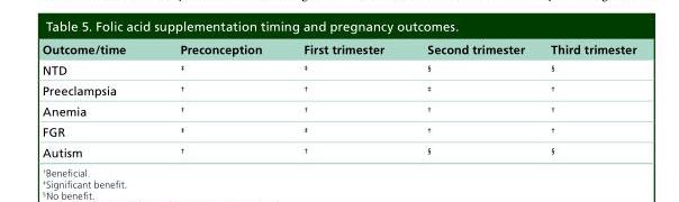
<table><thead><tr><td>Outcome/time</td><td>Preconception</td><td>First trimester</td><td>Second trimester</td><td>Third trimester</td></tr></thead><tbody><tr><td>NTD</td><td><sup>‡</sup></td><td><sup>‡</sup></td><td><sup>§</sup></td><td><sup>§</sup></td></tr><tr><td>Preeclampsia</td><td><sup>†</sup></td><td><sup>†</sup></td><td><sup>‡</sup></td><td><sup>†</sup></td></tr><tr><td>Anemia</td><td><sup>†</sup></td><td><sup>†</sup></td><td><sup>†</sup></td><td><sup>†</sup></td></tr><tr><td>FGR</td><td><sup>‡</sup></td><td><sup>‡</sup></td><td><sup>†</sup></td><td><sup>†</sup></td></tr><tr><td>Autism</td><td><sup>†</sup></td><td><sup>†</sup></td><td><sup>§</sup></td><td><sup>§</sup></td></tr></tbody></table>